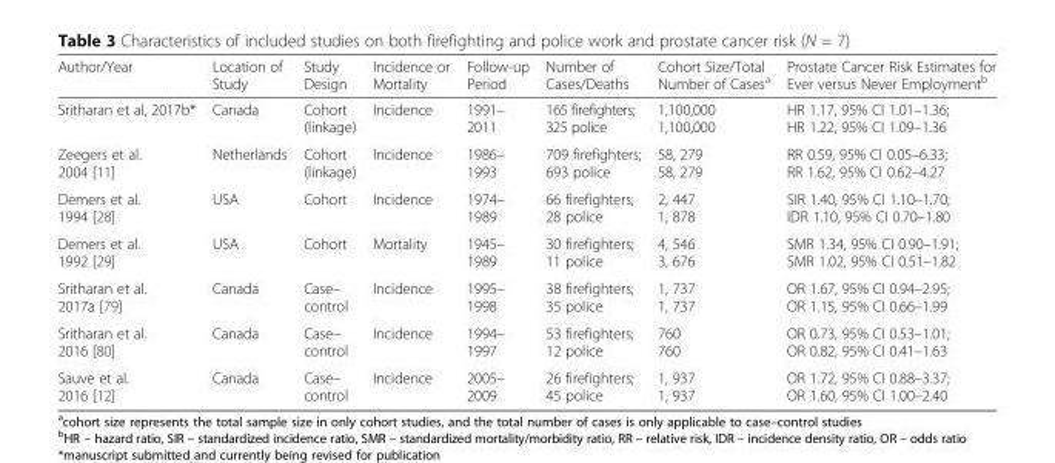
<table><thead><tr><td>Author/Year</td><td>Location of Study</td><td>Study Design</td><td>Incidence or Mortality</td><td>Follow-up Period</td><td>Number of Cases/Deaths</td><td>Cohort Size/Total Number of Cases<sup>a</sup></td><td>Prostate Cancer Risk Estimates for Ever versus Never Employment<sup>b</sup></td></tr></thead><tbody><tr><td>Sritharan et al, 2017b*</td><td>Canada</td><td>Cohort (linkage)</td><td>Incidence</td><td>1991– 2011</td><td>165 firefighters; 325 police</td><td>1,100,000 1,100,000</td><td>HR 1.17, 95% CI 1.01–1.36; HR 1.22, 95% CI 1.09–1.36</td></tr><tr><td>Zeegers et al. 2004 [11]</td><td>Netherlands</td><td>Cohort (linkage)</td><td>Incidence</td><td>1986– 1993</td><td>709 firefighters; 693 police</td><td>58, 279 58, 279</td><td>RR 0.59, 95% CI 0.05–6.33; RR 1.62, 95% CI 0.62–4.27</td></tr><tr><td>Demers et al. 1994 [28]</td><td>USA</td><td>Cohort</td><td>Incidence</td><td>1974– 1989</td><td>66 firefighters; 28 police</td><td>2, 447 1, 878</td><td>SIR 1.40, 95% CI 1.10–1.70; IDR 1.10, 95% CI 0.70–1.80</td></tr><tr><td>Demers et al. 1992 [29]</td><td>USA</td><td>Cohort</td><td>Mortality</td><td>1945– 1989</td><td>30 firefighters; 11 police</td><td>4, 546 3, 676</td><td>SMR 1.34, 95% CI 0.90–1.91; SMR 1.02, 95% CI 0.51–1.82</td></tr><tr><td>Sritharan et al. 2017a [79]</td><td>Canada</td><td>Case– control</td><td>Incidence</td><td>1995– 1998</td><td>38 firefighters; 35 police</td><td>1, 737 1, 737</td><td>OR 1.67, 95% CI 0.94–2.95; OR 1.15, 95% CI 0.66–1.99</td></tr><tr><td>Sritharan et al. 2016 [80]</td><td>Canada</td><td>Case– control</td><td>Incidence</td><td>1994– 1997</td><td>53 firefighters; 12 police</td><td>760 760</td><td>OR 0.73, 95% CI 0.53–1.01; OR 0.82, 95% CI 0.41–1.63</td></tr><tr><td>Sauve et al. 2016 [12]</td><td>Canada</td><td>Case– control</td><td>Incidence</td><td>2005– 2009</td><td>26 firefighters; 45 police</td><td>1, 937 1, 937</td><td>OR 1.72, 95% CI 0.88–3.37; OR 1.60, 95% CI 1.00–2.40</td></tr></tbody></table>